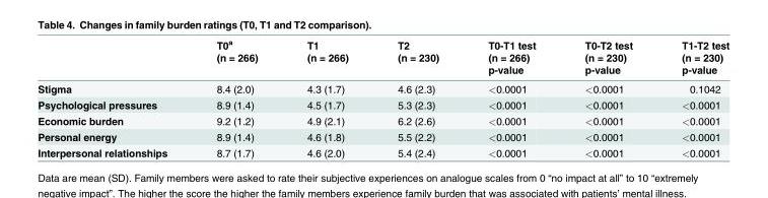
<table><thead><tr><td rowspan="3"></td><td rowspan="3">T0<sup>a</sup> (n = 266)</td><td rowspan="3">T1 (n = 266)</td><td rowspan="3">T2 (n = 230)</td><td rowspan="3">T0-T1 test (n = 266) p-value</td><td rowspan="3">T0-T2 test (n = 230) p-value</td><td rowspan="3">T1-T2 test (n = 230) p-value</td></tr><tr></tr><tr></tr></thead><tbody><tr><td>Stigma</td><td>8.4 (2.0)</td><td>4.3 (1.7)</td><td>4.6 (2.3)</td><td>&lt;0.0001</td><td>&lt;0.0001</td><td>0.1042</td></tr><tr><td>Psychological pressures</td><td>8.9 (1.4)</td><td>4.5 (1.7)</td><td>5.3 (2.3)</td><td>&lt;0.0001</td><td>&lt;0.0001</td><td>&lt;0.0001</td></tr><tr><td>Economic burden</td><td>9.2 (1.2)</td><td>4.9 (2.1)</td><td>6.2 (2.6)</td><td>&lt;0.0001</td><td>&lt;0.0001</td><td>&lt;0.0001</td></tr><tr><td>Personal energy</td><td>8.9 (1.4)</td><td>4.6 (1.8)</td><td>5.5 (2.2)</td><td>&lt;0.0001</td><td>&lt;0.0001</td><td>&lt;0.0001</td></tr><tr><td>Interpersonal relationships</td><td>8.7 (1.7)</td><td>4.6 (2.0)</td><td>5.4 (2.4)</td><td>&lt;0.0001</td><td>&lt;0.0001</td><td>&lt;0.0001</td></tr></tbody></table>